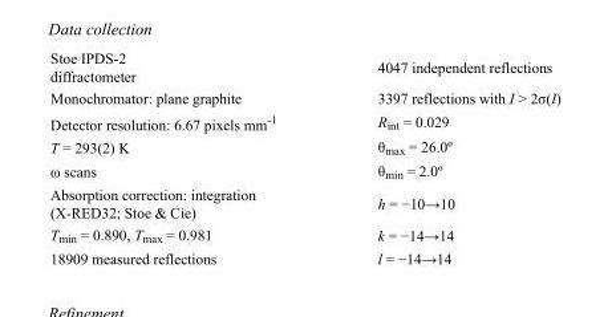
<table><tbody><tr><td>Stoe IPDS-2 diffractometer</td><td>4047 independent reflections</td></tr><tr><td>Monochromator: plane graphite</td><td>3397 reflections with I &gt; 2σ(I)</td></tr><tr><td>Detector resolution: 6.67 pixels mm<sup>-1</sup></td><td>R<sub>int</sub> = 0.029</td></tr><tr><td>T = 293(2) K</td><td>θ<sub>max</sub> = 26.0º</td></tr><tr><td>ω scans</td><td>θ<sub>min</sub> = 2.0º</td></tr><tr><td>Absorption correction: integration (X-RED32; Stoe &amp; Cie)</td><td>h = −10→10</td></tr><tr><td>T<sub>min</sub> = 0.890, T<sub>max</sub> = 0.981</td><td>k = −14→14</td></tr><tr><td>18909 measured reflections</td><td>l = −14→14</td></tr></tbody></table>